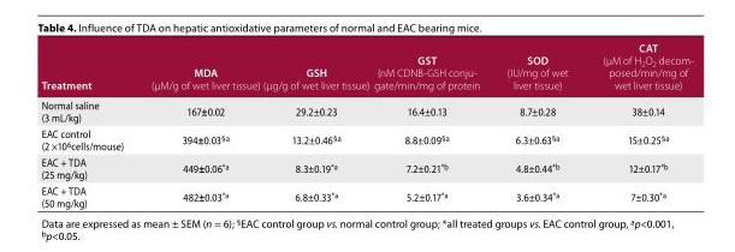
<table><thead><tr><td>Treatment</td><td>MDA (μM/g of wet liver tissue)</td><td>GSH (μg/g of wet liver tissue)</td><td>GST (nM CDNB-GSH conju- gate/min/mg of protein</td><td>SOD (IU/mg of wet liver tissue)</td><td>CAT (μM of H2O2 decom- posed/min/mg of wet liver tissue)</td></tr></thead><tbody><tr><td>Normal saline (3 mL/kg)</td><td>167±0.02</td><td>29.2±0.23</td><td>16.4±0.13</td><td>8.7±0.28</td><td>38±0.14</td></tr><tr><td>EAC control (2 ×10<sup>6</sup>cells/mouse)</td><td>394±0.03§<sup>a</sup></td><td>13.2±0.46§<sup>a</sup></td><td>8.8±0.09§<sup>a</sup></td><td>6.3±0.63§<sup>a</sup></td><td>15±0.25§<sup>a</sup></td></tr><tr><td>EAC + TDA (25 mg/kg)</td><td>449±0.06*<sup>a</sup></td><td>8.3±0.19*<sup>a</sup></td><td>7.2±0.21*<sup>b</sup></td><td>4.8±0.44*<sup>b</sup></td><td>12±0.17*<sup>b</sup></td></tr><tr><td>EAC + TDA (50 mg/kg)</td><td>482±0.03*<sup>a</sup></td><td>6.8±0.33*<sup>a</sup></td><td>5.2±0.17*<sup>a</sup></td><td>3.6±0.34*<sup>a</sup></td><td>7±0.30*<sup>a</sup></td></tr></tbody></table>